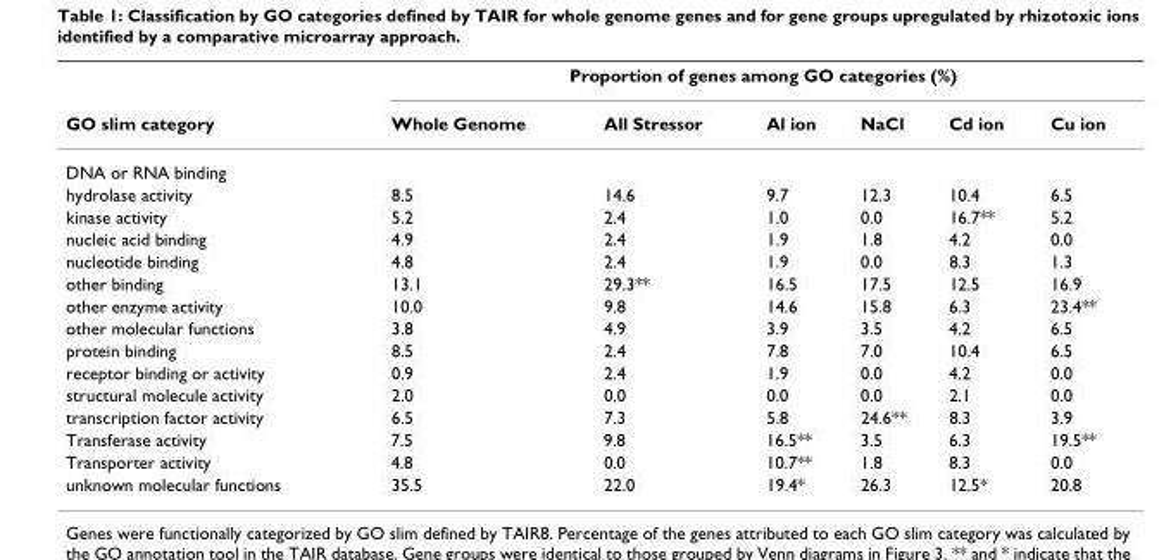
<table><thead><tr><td rowspan="2">GO slim category</td><td colspan="6">Proportion of genes among GO categories (%)</td></tr><tr><td>Whole Genome</td><td>All Stressor</td><td>Al ion</td><td>NaCl</td><td>Cd ion</td><td>Cu ion</td></tr></thead><tbody><tr><td colspan="7">DNA or RNA binding</td></tr><tr><td>hydrolase activity</td><td>8.5</td><td>14.6</td><td>9.7</td><td>12.3</td><td>10.4</td><td>6.5</td></tr><tr><td>kinase activity</td><td>5.2</td><td>2.4</td><td>1.0</td><td>0.0</td><td>16.7**</td><td>5.2</td></tr><tr><td>nucleic acid binding</td><td>4.9</td><td>2.4</td><td>1.9</td><td>1.8</td><td>4.2</td><td>0.0</td></tr><tr><td>nucleotide binding</td><td>4.8</td><td>2.4</td><td>1.9</td><td>0.0</td><td>8.3</td><td>1.3</td></tr><tr><td>other binding</td><td>13.1</td><td>29.3**</td><td>16.5</td><td>17.5</td><td>12.5</td><td>16.9</td></tr><tr><td>other enzyme activity</td><td>10.0</td><td>9.8</td><td>14.6</td><td>15.8</td><td>6.3</td><td>23.4**</td></tr><tr><td>other molecular functions</td><td>3.8</td><td>4.9</td><td>3.9</td><td>3.5</td><td>4.2</td><td>6.5</td></tr><tr><td>protein binding</td><td>8.5</td><td>2.4</td><td>7.8</td><td>7.0</td><td>10.4</td><td>6.5</td></tr><tr><td>receptor binding or activity</td><td>0.9</td><td>2.4</td><td>1.9</td><td>0.0</td><td>4.2</td><td>0.0</td></tr><tr><td>structural molecule activity</td><td>2.0</td><td>0.0</td><td>0.0</td><td>0.0</td><td>2.1</td><td>0.0</td></tr><tr><td>transcription factor activity</td><td>6.5</td><td>7.3</td><td>5.8</td><td>24.6**</td><td>8.3</td><td>3.9</td></tr><tr><td>Transferase activity</td><td>7.5</td><td>9.8</td><td>16.5**</td><td>3.5</td><td>6.3</td><td>19.5**</td></tr><tr><td>Transporter activity</td><td>4.8</td><td>0.0</td><td>10.7**</td><td>1.8</td><td>8.3</td><td>0.0</td></tr><tr><td>unknown molecular functions</td><td>35.5</td><td>22.0</td><td>19.4*</td><td>26.3</td><td>12.5*</td><td>20.8</td></tr></tbody></table>